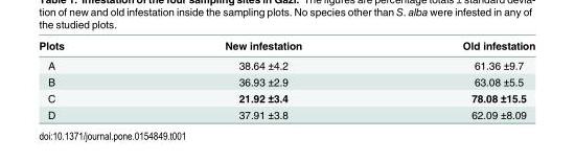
<table><thead><tr><td>Plots</td><td>New infestation</td><td>Old infestation</td></tr></thead><tbody><tr><td>A</td><td>38.64 ±4.2</td><td>61.36 ±9.7</td></tr><tr><td>B</td><td>36.93 ±2.9</td><td>63.08 ±5.5</td></tr><tr><td>C</td><td>21.92 ±3.4</td><td>78.08 ±15.5</td></tr><tr><td>D</td><td>37.91 ±3.8</td><td>62.09 ±8.09</td></tr></tbody></table>